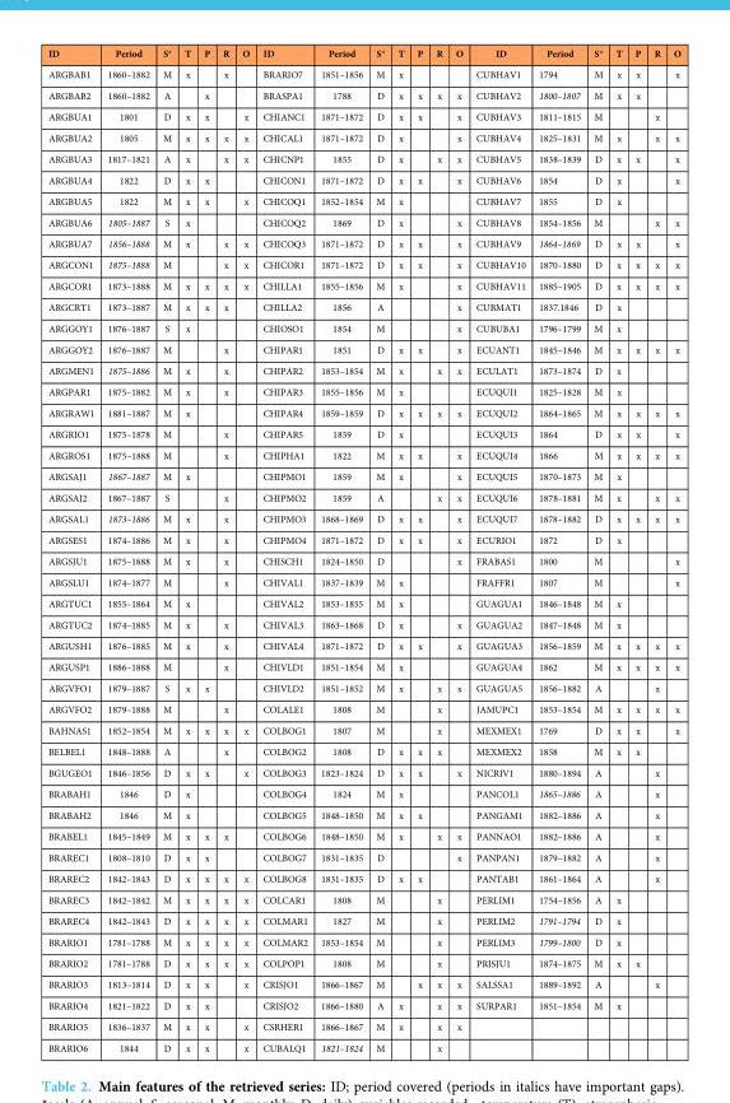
<table><thead><tr><td>ID</td><td>Period</td><td>S*</td><td>T</td><td>P</td><td>R</td><td>O</td><td>ID</td><td>Period</td><td>S*</td><td>T</td><td>P</td><td>R</td><td>O</td><td>ID</td><td>Period</td><td>S*</td><td>T</td><td>P</td><td>R</td><td>O</td></tr></thead><tbody><tr><td>ARGBAB1</td><td>1860–1882</td><td>M</td><td>x</td><td></td><td>x</td><td></td><td>BRARIO7</td><td>1851–1856</td><td>M</td><td>x</td><td></td><td></td><td></td><td>CUBHAV1</td><td>1794</td><td>M</td><td>x</td><td>x</td><td></td><td>x</td></tr><tr><td>ARGBAB2</td><td>1860–1882</td><td>A</td><td></td><td>x</td><td></td><td></td><td>BRASPA1</td><td>1788</td><td>D</td><td>x</td><td>x</td><td>x</td><td>x</td><td>CUBHAV2</td><td>1800–1807</td><td>M</td><td>x</td><td>x</td><td></td><td></td></tr><tr><td>ARGBUA1</td><td>1801</td><td>D</td><td>x</td><td>x</td><td></td><td>x</td><td>CHIANC1</td><td>1871–1872</td><td>D</td><td>x</td><td>x</td><td></td><td>x</td><td>CUBHAV3</td><td>1811–1815</td><td>M</td><td></td><td></td><td>x</td><td></td></tr><tr><td>ARGBUA2</td><td>1805</td><td>M</td><td>x</td><td>x</td><td>x</td><td>x</td><td>CHICAL1</td><td>1871–1872</td><td>D</td><td>x</td><td></td><td></td><td>x</td><td>CUBHAV4</td><td>1825–1831</td><td>M</td><td>x</td><td></td><td>x</td><td>x</td></tr><tr><td>ARGBUA3</td><td>1817–1821</td><td>A</td><td>x</td><td></td><td>x</td><td>x</td><td>CHICNP1</td><td>1855</td><td>D</td><td>x</td><td></td><td>x</td><td>x</td><td>CUBHAV5</td><td>1838–1839</td><td>D</td><td>x</td><td>x</td><td></td><td>x</td></tr><tr><td>ARGBUA4</td><td>1822</td><td>D</td><td>x</td><td>x</td><td></td><td></td><td>CHICON1</td><td>1871–1872</td><td>D</td><td>x</td><td>x</td><td></td><td>x</td><td>CUBHAV6</td><td>1854</td><td>D</td><td>x</td><td></td><td></td><td>x</td></tr><tr><td>ARGBUA5</td><td>1822</td><td>M</td><td>x</td><td>x</td><td></td><td>x</td><td>CHICOQ1</td><td>1852–1854</td><td>M</td><td>x</td><td></td><td></td><td></td><td>CUBHAV7</td><td>1855</td><td>D</td><td>x</td><td></td><td></td><td></td></tr><tr><td>ARGBUA6</td><td>1805–1887</td><td>S</td><td>x</td><td></td><td></td><td></td><td>CHICOQ2</td><td>1869</td><td>D</td><td>x</td><td></td><td></td><td>x</td><td>CUBHAV8</td><td>1854–1856</td><td>M</td><td></td><td></td><td>x</td><td>x</td></tr><tr><td>ARGBUA7</td><td>1856–1888</td><td>M</td><td>x</td><td></td><td>x</td><td>x</td><td>CHICOQ3</td><td>1871–1872</td><td>D</td><td>x</td><td>x</td><td></td><td>x</td><td>CUBHAV9</td><td>1864–1869</td><td>D</td><td>x</td><td>x</td><td></td><td>x</td></tr><tr><td>ARGCON1</td><td>1875–1888</td><td>M</td><td></td><td></td><td>x</td><td>x</td><td>CHICOR1</td><td>1871–1872</td><td>D</td><td>x</td><td>x</td><td></td><td>x</td><td>CUBHAV10</td><td>1870–1880</td><td>D</td><td>x</td><td>x</td><td>x</td><td>x</td></tr><tr><td>ARGCOR1</td><td>1873–1888</td><td>M</td><td>x</td><td>x</td><td>x</td><td>x</td><td>CHILLA1</td><td>1855–1856</td><td>M</td><td>x</td><td></td><td></td><td>x</td><td>CUBHAV11</td><td>1885–1905</td><td>D</td><td>x</td><td>x</td><td>x</td><td>x</td></tr><tr><td>ARGCRT1</td><td>1873–1887</td><td>M</td><td>x</td><td>x</td><td>x</td><td></td><td>CHILLA2</td><td>1856</td><td>A</td><td></td><td></td><td></td><td>x</td><td>CUBMAT1</td><td>1837.1846</td><td>D</td><td>x</td><td></td><td></td><td></td></tr><tr><td>ARGGOY1</td><td>1876–1887</td><td>S</td><td>x</td><td></td><td></td><td></td><td>CHIOSO1</td><td>1854</td><td>M</td><td></td><td></td><td></td><td>x</td><td>CUBUBA1</td><td>1796–1799</td><td>M</td><td>x</td><td></td><td></td><td></td></tr><tr><td>ARGGOY2</td><td>1876–1887</td><td>M</td><td></td><td></td><td>x</td><td></td><td>CHIPAR1</td><td>1851</td><td>D</td><td>x</td><td>x</td><td></td><td>x</td><td>ECUANT1</td><td>1845–1846</td><td>M</td><td>x</td><td>x</td><td>x</td><td>x</td></tr><tr><td>ARGMEN1</td><td>1875–1886</td><td>M</td><td>x</td><td></td><td>x</td><td></td><td>CHIPAR2</td><td>1853–1854</td><td>M</td><td>x</td><td></td><td>x</td><td>x</td><td>ECULAT1</td><td>1873–1874</td><td>D</td><td>x</td><td></td><td></td><td></td></tr><tr><td>ARGPAR1</td><td>1875–1882</td><td>M</td><td>x</td><td></td><td>x</td><td></td><td>CHIPAR3</td><td>1855–1856</td><td>M</td><td>x</td><td></td><td></td><td></td><td>ECUQUI1</td><td>1825–1828</td><td>M</td><td>x</td><td></td><td></td><td></td></tr><tr><td>ARGRAW1</td><td>1881–1887</td><td>M</td><td>x</td><td></td><td></td><td></td><td>CHIPAR4</td><td>1859–1859</td><td>D</td><td>x</td><td>x</td><td>x</td><td>x</td><td>ECUQUI2</td><td>1864–1865</td><td>M</td><td>x</td><td>x</td><td>x</td><td>x</td></tr><tr><td>ARGRIO1</td><td>1875–1878</td><td>M</td><td></td><td></td><td>x</td><td></td><td>CHIPAR5</td><td>1859</td><td>D</td><td>x</td><td></td><td></td><td></td><td>ECUQUI3</td><td>1864</td><td>D</td><td>x</td><td>x</td><td></td><td>x</td></tr><tr><td>ARGROS1</td><td>1875–1888</td><td>M</td><td></td><td></td><td>x</td><td></td><td>CHIPHA1</td><td>1822</td><td>M</td><td>x</td><td>x</td><td></td><td>x</td><td>ECUQUI4</td><td>1866</td><td>M</td><td>x</td><td>x</td><td>x</td><td>x</td></tr><tr><td>ARGSAJ1</td><td>1867–1887</td><td>M</td><td>x</td><td></td><td></td><td></td><td>CHIPMO1</td><td>1859</td><td>M</td><td>x</td><td></td><td></td><td>x</td><td>ECUQUI5</td><td>1870–1873</td><td>M</td><td>x</td><td></td><td></td><td></td></tr><tr><td>ARGSAJ2</td><td>1867–1887</td><td>S</td><td></td><td></td><td>x</td><td></td><td>CHIPMO2</td><td>1859</td><td>A</td><td></td><td></td><td>x</td><td>x</td><td>ECUQUI6</td><td>1878–1881</td><td>M</td><td>x</td><td></td><td>x</td><td>x</td></tr><tr><td>ARGSAL1</td><td>1873–1886</td><td>M</td><td>x</td><td></td><td>x</td><td></td><td>CHIPMO3</td><td>1868–1869</td><td>D</td><td>x</td><td>x</td><td></td><td>x</td><td>ECUQUI7</td><td>1878–1882</td><td>D</td><td>x</td><td>x</td><td>x</td><td>x</td></tr><tr><td>ARGSES1</td><td>1874–1886</td><td>M</td><td>x</td><td></td><td>x</td><td></td><td>CHIPMO4</td><td>1871–1872</td><td>D</td><td>x</td><td>x</td><td></td><td>x</td><td>ECURIO1</td><td>1872</td><td>D</td><td>x</td><td></td><td></td><td></td></tr><tr><td>ARGSJU1</td><td>1875–1888</td><td>M</td><td>x</td><td></td><td>x</td><td></td><td>CHISCH1</td><td>1824–1850</td><td>D</td><td></td><td></td><td></td><td>x</td><td>FRABAS1</td><td>1800</td><td>M</td><td></td><td></td><td></td><td>x</td></tr><tr><td>ARGSLU1</td><td>1874–1877</td><td>M</td><td></td><td></td><td>x</td><td></td><td>CHIVAL1</td><td>1837–1839</td><td>M</td><td>x</td><td></td><td></td><td></td><td>FRAFFR1</td><td>1807</td><td>M</td><td></td><td></td><td></td><td>x</td></tr><tr><td>ARGTUC1</td><td>1855–1864</td><td>M</td><td>x</td><td></td><td></td><td></td><td>CHIVAL2</td><td>1853–1855</td><td>M</td><td>x</td><td></td><td></td><td></td><td>GUAGUA1</td><td>1846–1848</td><td>M</td><td>x</td><td></td><td></td><td></td></tr><tr><td>ARGTUC2</td><td>1874–1885</td><td>M</td><td>x</td><td></td><td>x</td><td></td><td>CHIVAL3</td><td>1863–1868</td><td>D</td><td>x</td><td></td><td></td><td>x</td><td>GUAGUA2</td><td>1847–1848</td><td>M</td><td>x</td><td></td><td></td><td></td></tr><tr><td>ARGUSH1</td><td>1876–1885</td><td>M</td><td>x</td><td></td><td>x</td><td></td><td>CHIVAL4</td><td>1871–1872</td><td>D</td><td>x</td><td>x</td><td></td><td>x</td><td>GUAGUA3</td><td>1856–1859</td><td>M</td><td>x</td><td>x</td><td>x</td><td>x</td></tr><tr><td>ARGUSP1</td><td>1886–1888</td><td>M</td><td></td><td></td><td>x</td><td></td><td>CHIVLD1</td><td>1851–1854</td><td>M</td><td>x</td><td></td><td></td><td></td><td>GUAGUA4</td><td>1862</td><td>M</td><td>x</td><td>x</td><td>x</td><td>x</td></tr><tr><td>ARGVFO1</td><td>1879–1887</td><td>S</td><td>x</td><td>x</td><td></td><td></td><td>CHIVLD2</td><td>1851–1852</td><td>M</td><td>x</td><td></td><td>x</td><td>x</td><td>GUAGUA5</td><td>1856–1882</td><td>A</td><td></td><td></td><td>x</td><td></td></tr><tr><td>ARGVFO2</td><td>1879–1888</td><td>M</td><td></td><td></td><td>x</td><td></td><td>COLALE1</td><td>1808</td><td>M</td><td></td><td></td><td>x</td><td></td><td>JAMUPC1</td><td>1853–1854</td><td>M</td><td>x</td><td>x</td><td>x</td><td>x</td></tr><tr><td>BAHNAS1</td><td>1852–1854</td><td>M</td><td>x</td><td>x</td><td>x</td><td>x</td><td>COLBOG1</td><td>1807</td><td>M</td><td></td><td></td><td>x</td><td></td><td>MEXMEX1</td><td>1769</td><td>D</td><td>x</td><td>x</td><td></td><td>x</td></tr><tr><td>BELBEL1</td><td>1848–1888</td><td>A</td><td></td><td></td><td>x</td><td></td><td>COLBOG2</td><td>1808</td><td>D</td><td>x</td><td>x</td><td>x</td><td></td><td>MEXMEX2</td><td>1858</td><td>M</td><td>x</td><td>x</td><td></td><td></td></tr><tr><td>BGUGEO1</td><td>1846–1856</td><td>D</td><td>x</td><td>x</td><td></td><td>x</td><td>COLBOG3</td><td>1823–1824</td><td>D</td><td>x</td><td>x</td><td></td><td>x</td><td>NICRIV1</td><td>1880–1894</td><td>A</td><td></td><td></td><td>x</td><td></td></tr><tr><td>BRABAH1</td><td>1846</td><td>D</td><td>x</td><td></td><td></td><td></td><td>COLBOG4</td><td>1824</td><td>M</td><td>x</td><td></td><td></td><td></td><td>PANCOL1</td><td>1865–1886</td><td>A</td><td></td><td></td><td>x</td><td></td></tr><tr><td>BRABAH2</td><td>1846</td><td>M</td><td>x</td><td></td><td></td><td></td><td>COLBOG5</td><td>1848–1850</td><td>M</td><td>x</td><td>x</td><td></td><td></td><td>PANGAM1</td><td>1882–1886</td><td>A</td><td></td><td></td><td>x</td><td></td></tr><tr><td>BRABEL1</td><td>1845–1849</td><td>M</td><td>x</td><td>x</td><td>x</td><td></td><td>COLBOG6</td><td>1848–1850</td><td>M</td><td>x</td><td></td><td>x</td><td>x</td><td>PANNAO1</td><td>1882–1886</td><td>A</td><td></td><td></td><td>x</td><td></td></tr><tr><td>BRAREC1</td><td>1808–1810</td><td>D</td><td>x</td><td>x</td><td></td><td></td><td>COLBOG7</td><td>1831–1835</td><td>D</td><td></td><td></td><td></td><td>x</td><td>PANPAN1</td><td>1879–1882</td><td>A</td><td></td><td></td><td>x</td><td></td></tr><tr><td>BRAREC2</td><td>1842–1843</td><td>D</td><td>x</td><td>x</td><td>x</td><td>x</td><td>COLBOG8</td><td>1831–1835</td><td>D</td><td>x</td><td>x</td><td></td><td></td><td>PANTAB1</td><td>1861–1864</td><td>A</td><td></td><td></td><td>x</td><td></td></tr><tr><td>BRAREC3</td><td>1842–1842</td><td>M</td><td>x</td><td>x</td><td>x</td><td>x</td><td>COLCAR1</td><td>1808</td><td>M</td><td></td><td></td><td>x</td><td></td><td>PERLIM1</td><td>1754–1856</td><td>A</td><td>x</td><td></td><td></td><td></td></tr><tr><td>BRAREC4</td><td>1842–1843</td><td>D</td><td>x</td><td>x</td><td>x</td><td>x</td><td>COLMAR1</td><td>1827</td><td>M</td><td></td><td></td><td>x</td><td></td><td>PERLIM2</td><td>1791–1794</td><td>D</td><td>x</td><td></td><td></td><td></td></tr><tr><td>BRARIO1</td><td>1781–1788</td><td>M</td><td>x</td><td>x</td><td>x</td><td>x</td><td>COLMAR2</td><td>1853–1854</td><td>M</td><td></td><td></td><td>x</td><td></td><td>PERLIM3</td><td>1799–1800</td><td>D</td><td>x</td><td></td><td></td><td></td></tr><tr><td>BRARIO2</td><td>1781–1788</td><td>D</td><td>x</td><td>x</td><td>x</td><td>x</td><td>COLPOP1</td><td>1808</td><td>M</td><td></td><td></td><td>x</td><td></td><td>PRISJU1</td><td>1874–1875</td><td>M</td><td>x</td><td>x</td><td></td><td></td></tr><tr><td>BRARIO3</td><td>1813–1814</td><td>D</td><td>x</td><td>x</td><td></td><td>x</td><td>CRISJO1</td><td>1866–1867</td><td>M</td><td></td><td>x</td><td>x</td><td>x</td><td>SALSSA1</td><td>1889–1892</td><td>A</td><td></td><td></td><td>x</td><td></td></tr><tr><td>BRARIO4</td><td>1821–1822</td><td>D</td><td>x</td><td>x</td><td></td><td></td><td>CRISJO2</td><td>1866–1880</td><td>A</td><td>x</td><td></td><td>x</td><td>x</td><td>SURPAR1</td><td>1851–1854</td><td>M</td><td>x</td><td></td><td></td><td></td></tr><tr><td>BRARIO5</td><td>1836–1837</td><td>M</td><td>x</td><td>x</td><td></td><td>x</td><td>CSRHER1</td><td>1866–1867</td><td>M</td><td>x</td><td></td><td>x</td><td>x</td><td></td><td></td><td></td><td></td><td></td><td></td><td></td></tr><tr><td>BRARIO6</td><td>1844</td><td>D</td><td>x</td><td>x</td><td></td><td>x</td><td>CUBALQ1</td><td>1821–1824</td><td>M</td><td></td><td></td><td>x</td><td></td><td></td><td></td><td></td><td></td><td></td><td></td><td></td></tr></tbody></table>